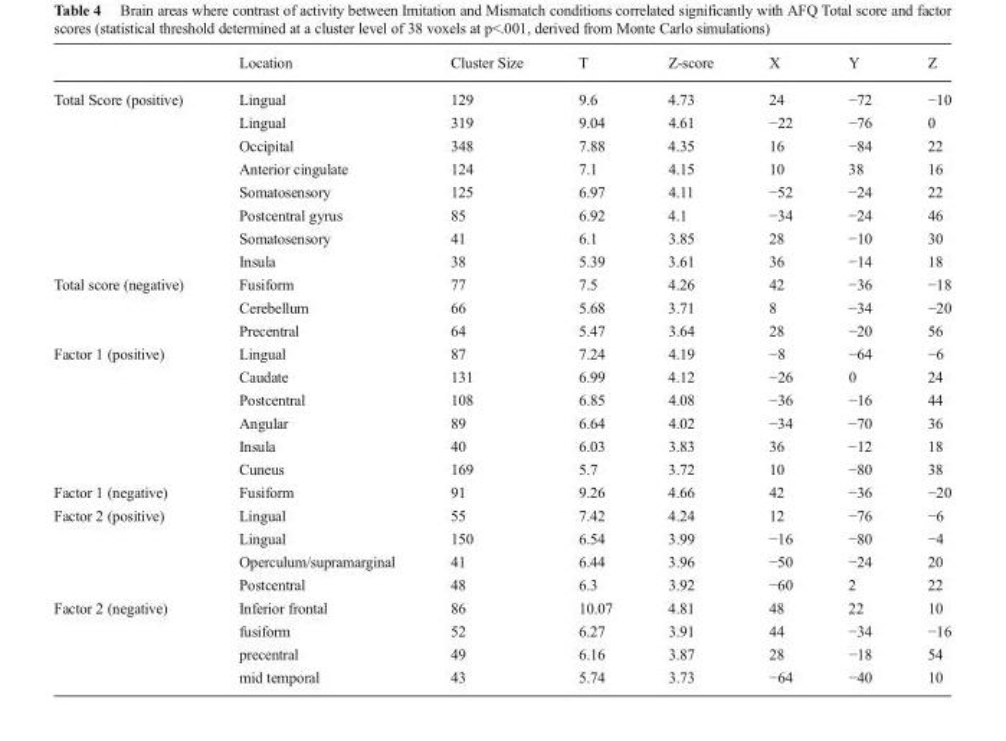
<table><thead><tr><td></td><td>Location</td><td>Cluster Size</td><td>T</td><td>Z-score</td><td>X</td><td>Y</td><td>Z</td></tr></thead><tbody><tr><td rowspan="8">Total Score (positive)</td><td>Lingual</td><td>129</td><td>9.6</td><td>4.73</td><td>24</td><td>−72</td><td>−10</td></tr><tr><td>Lingual</td><td>319</td><td>9.04</td><td>4.61</td><td>−22</td><td>−76</td><td>0</td></tr><tr><td>Occipital</td><td>348</td><td>7.88</td><td>4.35</td><td>16</td><td>−84</td><td>22</td></tr><tr><td>Anterior cingulate</td><td>124</td><td>7.1</td><td>4.15</td><td>10</td><td>38</td><td>16</td></tr><tr><td>Somatosensory</td><td>125</td><td>6.97</td><td>4.11</td><td>−52</td><td>−24</td><td>22</td></tr><tr><td>Postcentral gyrus</td><td>85</td><td>6.92</td><td>4.1</td><td>−34</td><td>−24</td><td>46</td></tr><tr><td>Somatosensory</td><td>41</td><td>6.1</td><td>3.85</td><td>28</td><td>−10</td><td>30</td></tr><tr><td>Insula</td><td>38</td><td>5.39</td><td>3.61</td><td>36</td><td>−14</td><td>18</td></tr><tr><td rowspan="3">Total score (negative)</td><td>Fusiform</td><td>77</td><td>7.5</td><td>4.26</td><td>42</td><td>−36</td><td>−18</td></tr><tr><td>Cerebellum</td><td>66</td><td>5.68</td><td>3.71</td><td>8</td><td>−34</td><td>−20</td></tr><tr><td>Precentral</td><td>64</td><td>5.47</td><td>3.64</td><td>28</td><td>−20</td><td>56</td></tr><tr><td rowspan="6">Factor 1 (positive)</td><td>Lingual</td><td>87</td><td>7.24</td><td>4.19</td><td>−8</td><td>−64</td><td>−6</td></tr><tr><td>Caudate</td><td>131</td><td>6.99</td><td>4.12</td><td>−26</td><td>0</td><td>24</td></tr><tr><td>Postcentral</td><td>108</td><td>6.85</td><td>4.08</td><td>−36</td><td>−16</td><td>44</td></tr><tr><td>Angular</td><td>89</td><td>6.64</td><td>4.02</td><td>−34</td><td>−70</td><td>36</td></tr><tr><td>Insula</td><td>40</td><td>6.03</td><td>3.83</td><td>36</td><td>−12</td><td>18</td></tr><tr><td>Cuneus</td><td>169</td><td>5.7</td><td>3.72</td><td>10</td><td>−80</td><td>38</td></tr><tr><td>Factor 1 (negative)</td><td>Fusiform</td><td>91</td><td>9.26</td><td>4.66</td><td>42</td><td>−36</td><td>−20</td></tr><tr><td rowspan="4">Factor 2 (positive)</td><td>Lingual</td><td>55</td><td>7.42</td><td>4.24</td><td>12</td><td>−76</td><td>−6</td></tr><tr><td>Lingual</td><td>150</td><td>6.54</td><td>3.99</td><td>−16</td><td>−80</td><td>−4</td></tr><tr><td>Operculum/supramarginal</td><td>41</td><td>6.44</td><td>3.96</td><td>−50</td><td>−24</td><td>20</td></tr><tr><td>Postcentral</td><td>48</td><td>6.3</td><td>3.92</td><td>−60</td><td>2</td><td>22</td></tr><tr><td rowspan="4">Factor 2 (negative)</td><td>Inferior frontal</td><td>86</td><td>10.07</td><td>4.81</td><td>48</td><td>22</td><td>10</td></tr><tr><td>fusiform</td><td>52</td><td>6.27</td><td>3.91</td><td>44</td><td>−34</td><td>−16</td></tr><tr><td>precentral</td><td>49</td><td>6.16</td><td>3.87</td><td>28</td><td>−18</td><td>54</td></tr><tr><td>mid temporal</td><td>43</td><td>5.74</td><td>3.73</td><td>−64</td><td>−40</td><td>10</td></tr></tbody></table>